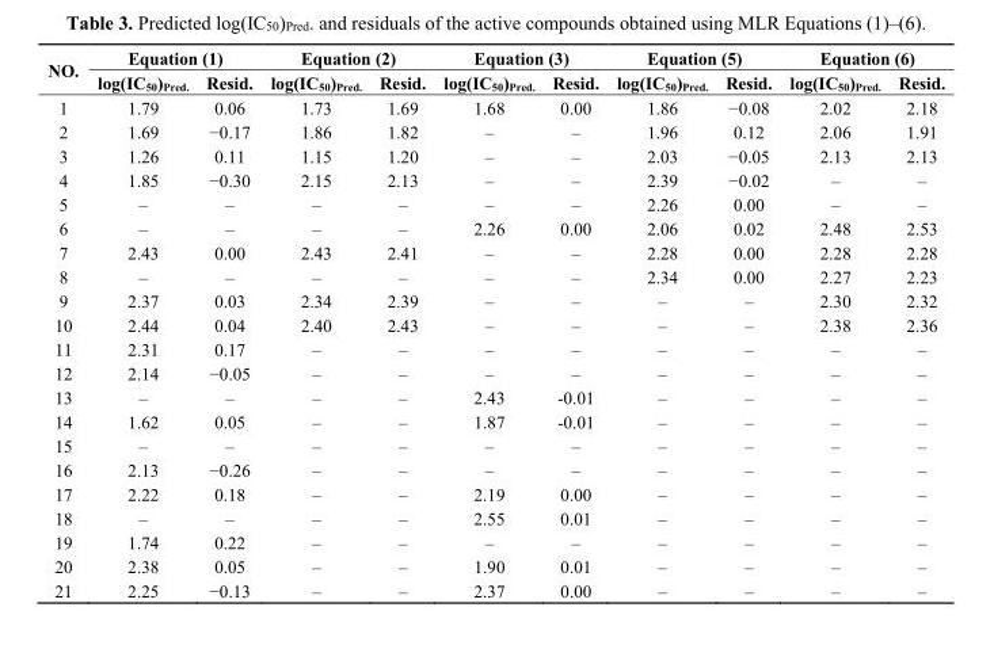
<table><thead><tr><td rowspan="2">NO.</td><td colspan="2">Equation (1)</td><td colspan="2">Equation (2)</td><td colspan="2">Equation (3)</td><td colspan="2">Equation (5)</td><td colspan="2">Equation (6)</td></tr><tr><td>log(IC<sub>50</sub>)<sub>Pred.</sub></td><td>Resid.</td><td>log(IC<sub>50</sub>)<sub>Pred.</sub></td><td>Resid.</td><td>log(IC<sub>50</sub>)<sub>Pred.</sub></td><td>Resid.</td><td>log(IC<sub>50</sub>)<sub>Pred.</sub></td><td>Resid.</td><td>log(IC<sub>50</sub>)<sub>Pred.</sub></td><td>Resid.</td></tr></thead><tbody><tr><td>1</td><td>1.79</td><td>0.06</td><td>1.73</td><td>1.69</td><td>1.68</td><td>0.00</td><td>1.86</td><td>−0.08</td><td>2.02</td><td>2.18</td></tr><tr><td>2</td><td>1.69</td><td>−0.17</td><td>1.86</td><td>1.82</td><td>–</td><td>–</td><td>1.96</td><td>0.12</td><td>2.06</td><td>1.91</td></tr><tr><td>3</td><td>1.26</td><td>0.11</td><td>1.15</td><td>1.20</td><td>–</td><td>–</td><td>2.03</td><td>−0.05</td><td>2.13</td><td>2.13</td></tr><tr><td>4</td><td>1.85</td><td>−0.30</td><td>2.15</td><td>2.13</td><td>–</td><td>–</td><td>2.39</td><td>−0.02</td><td>–</td><td>–</td></tr><tr><td>5</td><td>–</td><td>–</td><td>–</td><td>–</td><td>–</td><td>–</td><td>2.26</td><td>0.00</td><td>–</td><td>–</td></tr><tr><td>6</td><td>–</td><td>–</td><td>–</td><td>–</td><td>2.26</td><td>0.00</td><td>2.06</td><td>0.02</td><td>2.48</td><td>2.53</td></tr><tr><td>7</td><td>2.43</td><td>0.00</td><td>2.43</td><td>2.41</td><td>–</td><td>–</td><td>2.28</td><td>0.00</td><td>2.28</td><td>2.28</td></tr><tr><td>8</td><td>–</td><td>–</td><td>–</td><td>–</td><td>–</td><td>–</td><td>2.34</td><td>0.00</td><td>2.27</td><td>2.23</td></tr><tr><td>9</td><td>2.37</td><td>0.03</td><td>2.34</td><td>2.39</td><td>–</td><td>–</td><td>–</td><td>–</td><td>2.30</td><td>2.32</td></tr><tr><td>10</td><td>2.44</td><td>0.04</td><td>2.40</td><td>2.43</td><td>–</td><td>–</td><td>–</td><td>–</td><td>2.38</td><td>2.36</td></tr><tr><td>11</td><td>2.31</td><td>0.17</td><td>–</td><td>–</td><td>–</td><td>–</td><td>–</td><td>–</td><td>–</td><td>–</td></tr><tr><td>12</td><td>2.14</td><td>−0.05</td><td>–</td><td>–</td><td>–</td><td>–</td><td>–</td><td>–</td><td>–</td><td>–</td></tr><tr><td>13</td><td>–</td><td>–</td><td>–</td><td>–</td><td>2.43</td><td>-0.01</td><td>–</td><td>–</td><td>–</td><td>–</td></tr><tr><td>14</td><td>1.62</td><td>0.05</td><td>–</td><td>–</td><td>1.87</td><td>-0.01</td><td>–</td><td>–</td><td>–</td><td>–</td></tr><tr><td>15</td><td>–</td><td>–</td><td>–</td><td>–</td><td>–</td><td>–</td><td>–</td><td>–</td><td>–</td><td>–</td></tr><tr><td>16</td><td>2.13</td><td>−0.26</td><td>–</td><td>–</td><td>–</td><td>–</td><td>–</td><td>–</td><td>–</td><td>–</td></tr><tr><td>17</td><td>2.22</td><td>0.18</td><td>–</td><td>–</td><td>2.19</td><td>0.00</td><td>–</td><td>–</td><td>–</td><td>–</td></tr><tr><td>18</td><td>–</td><td>–</td><td>–</td><td>–</td><td>2.55</td><td>0.01</td><td>–</td><td>–</td><td>–</td><td>–</td></tr><tr><td>19</td><td>1.74</td><td>0.22</td><td>–</td><td>–</td><td>–</td><td>–</td><td>–</td><td>–</td><td>–</td><td>–</td></tr><tr><td>20</td><td>2.38</td><td>0.05</td><td>–</td><td>–</td><td>1.90</td><td>0.01</td><td>–</td><td>–</td><td>–</td><td>–</td></tr><tr><td>21</td><td>2.25</td><td>−0.13</td><td>–</td><td>–</td><td>2.37</td><td>0.00</td><td>–</td><td>–</td><td>–</td><td>–</td></tr></tbody></table>